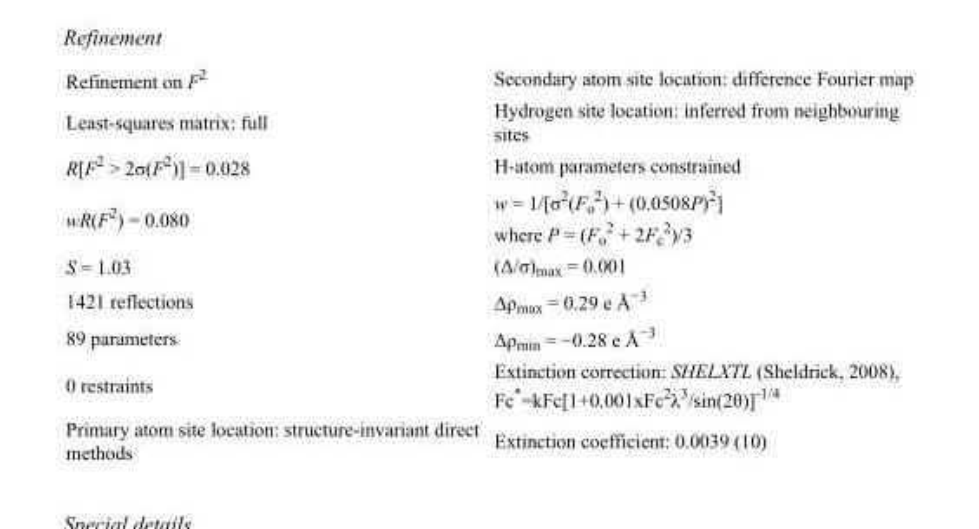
<table><tbody><tr><td>Refinement on F<sup>2</sup></td><td>Secondary atom site location: difference Fourier map</td></tr><tr><td>Least-squares matrix: full</td><td>Hydrogen site location: inferred from neighbouring sites</td></tr><tr><td>R[F<sup>2</sup> &gt; 2σ(F<sup>2</sup>)] = 0.028</td><td>H-atom parameters constrained</td></tr><tr><td>wR(F<sup>2</sup>) = 0.080</td><td>w = 1/[σ<sup>2</sup>(F<sub>o</sub> <sup>2</sup>) + (0.0508P)<sup>2</sup>] where P = (F<sub>o</sub> <sup>2</sup> + 2F<sub>c</sub> <sup>2</sup>)/3</td></tr><tr><td>S = 1.03</td><td>(Δ/σ)<sub>max</sub> = 0.001</td></tr><tr><td>1421 reflections</td><td>Δρ<sub>max</sub> = 0.29 e Å<sup>−3</sup></td></tr><tr><td>89 parameters</td><td>Δρ<sub>min</sub> = −0.28 e Å<sup>−3</sup></td></tr><tr><td>0 restraints</td><td>Extinction correction: SHELXTL (Sheldrick, 2008), Fc*=kFc[1+0.001xFc<sup>2</sup>λ<sup>3</sup>/sin(2θ)]<sup>-1/4</sup></td></tr><tr><td>Primary atom site location: structure-invariant direct methods</td><td>Extinction coefficient: 0.0039 (10)</td></tr></tbody></table>